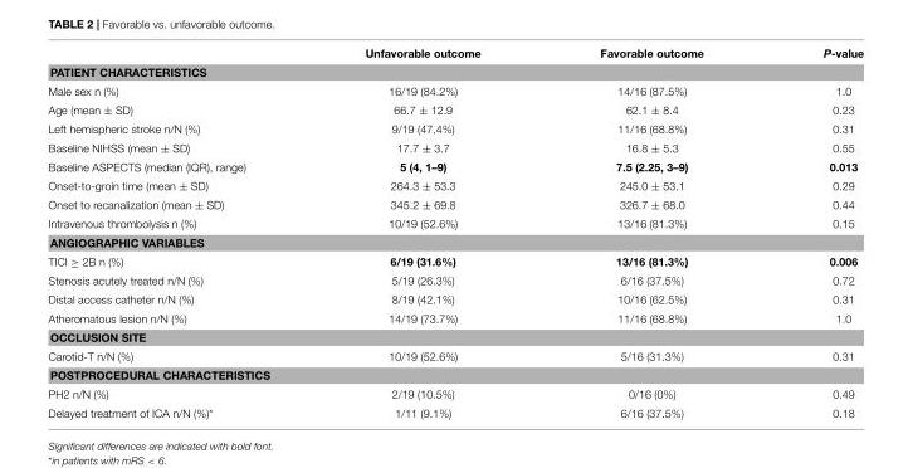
<table><thead><tr><td></td><td>Unfavorable outcome</td><td>Favorable outcome</td><td>P-value</td></tr></thead><tbody><tr><td colspan="4">PATIENT CHARACTERISTICS</td></tr><tr><td>Male sex n (%)</td><td>16/19 (84.2%)</td><td>14/16 (87.5%)</td><td>1.0</td></tr><tr><td>Age (mean ± SD)</td><td>66.7 ± 12.9</td><td>62.1 ± 8.4</td><td>0.23</td></tr><tr><td>Left hemispheric stroke n/N (%)</td><td>9/19 (47.4%)</td><td>11/16 (68.8%)</td><td>0.31</td></tr><tr><td>Baseline NIHSS (mean ± SD)</td><td>17.7 ± 3.7</td><td>16.8 ± 5.3</td><td>0.55</td></tr><tr><td>Baseline ASPECTS (median (IQR), range)</td><td>5 (4, 1–9)</td><td>7.5 (2.25, 3–9)</td><td>0.013</td></tr><tr><td>Onset-to-groin time (mean ± SD)</td><td>264.3 ± 53.3</td><td>245.0 ± 53.1</td><td>0.29</td></tr><tr><td>Onset to recanalization (mean ± SD)</td><td>345.2 ± 69.8</td><td>326.7 ± 68.0</td><td>0.44</td></tr><tr><td>Intravenous thrombolysis n (%)</td><td>10/19 (52.6%)</td><td>13/16 (81.3%)</td><td>0.15</td></tr><tr><td colspan="4">ANGIOGRAPHIC VARIABLES</td></tr><tr><td>TICI ≥ 2B n (%)</td><td>6/19 (31.6%)</td><td>13/16 (81.3%)</td><td>0.006</td></tr><tr><td>Stenosis acutely treated n/N (%)</td><td>5/19 (26.3%)</td><td>6/16 (37.5%)</td><td>0.72</td></tr><tr><td>Distal access catheter n/N (%)</td><td>8/19 (42.1%)</td><td>10/16 (62.5%)</td><td>0.31</td></tr><tr><td>Atheromatous lesion n/N (%)</td><td>14/19 (73.7%)</td><td>11/16 (68.8%)</td><td>1.0</td></tr><tr><td colspan="4">OCCLUSION SITE</td></tr><tr><td>Carotid-T n/N (%)</td><td>10/19 (52.6%)</td><td>5/16 (31.3%)</td><td>0.31</td></tr><tr><td colspan="4">POSTPROCEDURAL CHARACTERISTICS</td></tr><tr><td>PH2 n/N (%)</td><td>2/19 (10.5%)</td><td>0/16 (0%)</td><td>0.49</td></tr><tr><td>Delayed treatment of ICA n/N (%)*</td><td>1/11 (9.1%)</td><td>6/16 (37.5%)</td><td>0.18</td></tr></tbody></table>